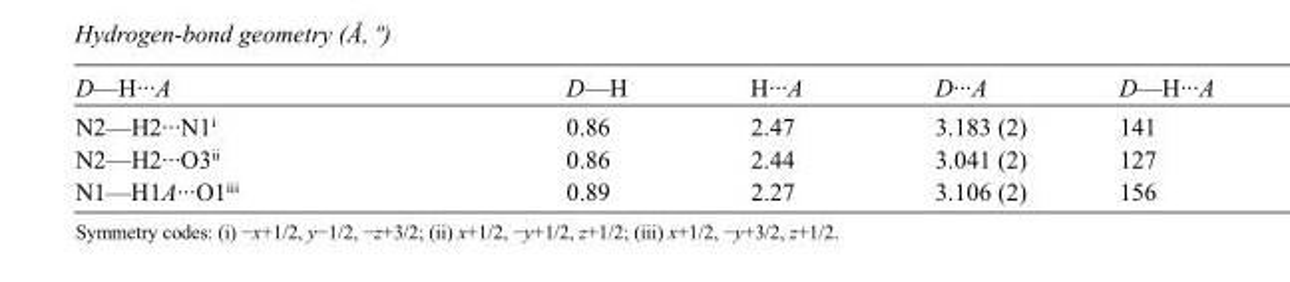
<table><tbody><tr><td>D—H···A</td><td>D—H</td><td>H···A</td><td>D···A</td><td>D—H···A</td></tr><tr><td>N2—H2···N1<sup>i</sup></td><td>0.86</td><td>2.47</td><td>3.183 (2)</td><td>141</td></tr><tr><td>N2—H2···O3<sup>ii</sup></td><td>0.86</td><td>2.44</td><td>3.041 (2)</td><td>127</td></tr><tr><td>N1—H1A···O1<sup>iii</sup></td><td>0.89</td><td>2.27</td><td>3.106 (2)</td><td>156</td></tr></tbody></table>